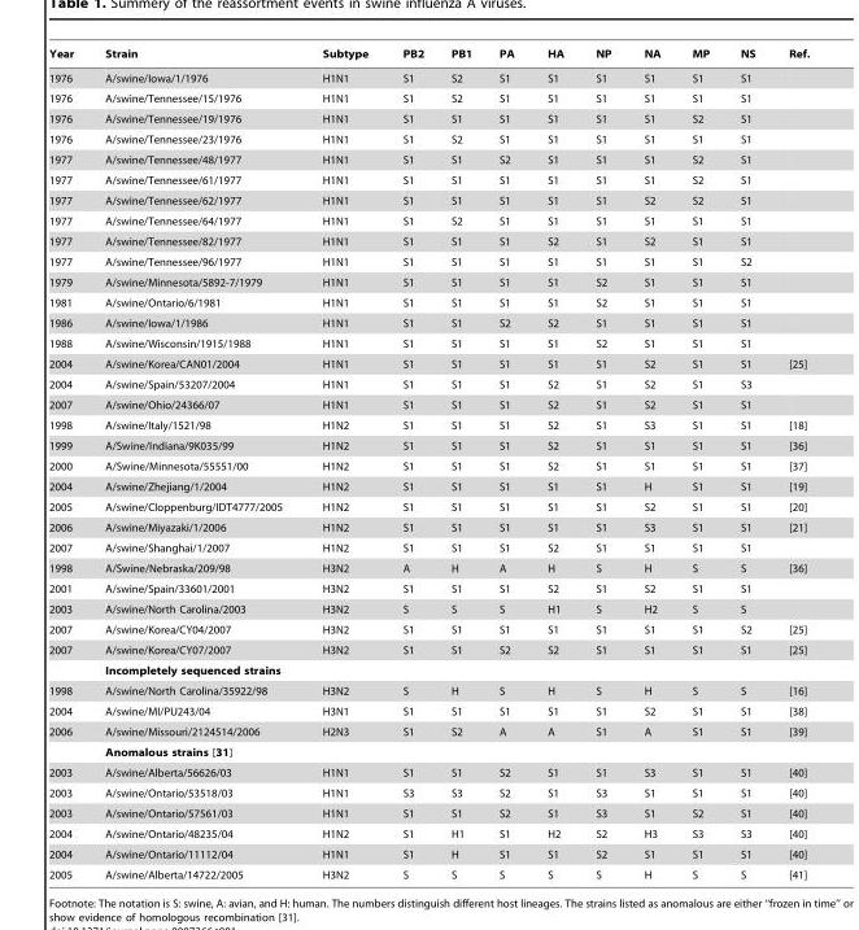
<table><thead><tr><td>Year</td><td>Strain</td><td>Subtype</td><td>PB2</td><td>PB1</td><td>PA</td><td>HA</td><td>NP</td><td>NA</td><td>MP</td><td>NS</td><td>Ref.</td></tr></thead><tbody><tr><td>1976</td><td>A/swine/Iowa/1/1976</td><td>H1N1</td><td>S1</td><td>S2</td><td>S1</td><td>S1</td><td>S1</td><td>S1</td><td>S1</td><td>S1</td><td></td></tr><tr><td>1976</td><td>A/swine/Tennessee/15/1976</td><td>H1N1</td><td>S1</td><td>S2</td><td>S1</td><td>S1</td><td>S1</td><td>S1</td><td>S1</td><td>S1</td><td></td></tr><tr><td>1976</td><td>A/swine/Tennessee/19/1976</td><td>H1N1</td><td>S1</td><td>S1</td><td>S1</td><td>S1</td><td>S1</td><td>S1</td><td>S2</td><td>S1</td><td></td></tr><tr><td>1976</td><td>A/swine/Tennessee/23/1976</td><td>H1N1</td><td>S1</td><td>S2</td><td>S1</td><td>S1</td><td>S1</td><td>S1</td><td>S1</td><td>S1</td><td></td></tr><tr><td>1977</td><td>A/swine/Tennessee/48/1977</td><td>H1N1</td><td>S1</td><td>S1</td><td>S2</td><td>S1</td><td>S1</td><td>S1</td><td>S2</td><td>S1</td><td></td></tr><tr><td>1977</td><td>A/swine/Tennessee/61/1977</td><td>H1N1</td><td>S1</td><td>S1</td><td>S1</td><td>S1</td><td>S1</td><td>S1</td><td>S2</td><td>S1</td><td></td></tr><tr><td>1977</td><td>A/swine/Tennessee/62/1977</td><td>H1N1</td><td>S1</td><td>S1</td><td>S1</td><td>S1</td><td>S1</td><td>S2</td><td>S2</td><td>S1</td><td></td></tr><tr><td>1977</td><td>A/swine/Tennessee/64/1977</td><td>H1N1</td><td>S1</td><td>S2</td><td>S1</td><td>S1</td><td>S1</td><td>S1</td><td>S1</td><td>S1</td><td></td></tr><tr><td>1977</td><td>A/swine/Tennessee/82/1977</td><td>H1N1</td><td>S1</td><td>S1</td><td>S1</td><td>S2</td><td>S1</td><td>S2</td><td>S1</td><td>S1</td><td></td></tr><tr><td>1977</td><td>A/swine/Tennessee/96/1977</td><td>H1N1</td><td>S1</td><td>S1</td><td>S1</td><td>S1</td><td>S1</td><td>S1</td><td>S1</td><td>S2</td><td></td></tr><tr><td>1979</td><td>A/swine/Minnesota/5892-7/1979</td><td>H1N1</td><td>S1</td><td>S1</td><td>S1</td><td>S1</td><td>S2</td><td>S1</td><td>S1</td><td>S1</td><td></td></tr><tr><td>1981</td><td>A/swine/Ontario/6/1981</td><td>H1N1</td><td>S1</td><td>S1</td><td>S1</td><td>S1</td><td>S2</td><td>S1</td><td>S1</td><td>S1</td><td></td></tr><tr><td>1986</td><td>A/swine/Iowa/1/1986</td><td>H1N1</td><td>S1</td><td>S1</td><td>S2</td><td>S2</td><td>S1</td><td>S1</td><td>S1</td><td>S1</td><td></td></tr><tr><td>1988</td><td>A/swine/Wisconsin/1915/1988</td><td>H1N1</td><td>S1</td><td>S1</td><td>S1</td><td>S1</td><td>S2</td><td>S1</td><td>S1</td><td>S1</td><td></td></tr><tr><td>2004</td><td>A/swine/Korea/CAN01/2004</td><td>H1N1</td><td>S1</td><td>S1</td><td>S1</td><td>S1</td><td>S1</td><td>S2</td><td>S1</td><td>S1</td><td>[25]</td></tr><tr><td>2004</td><td>A/swine/Spain/53207/2004</td><td>H1N1</td><td>S1</td><td>S1</td><td>S1</td><td>S2</td><td>S1</td><td>S2</td><td>S1</td><td>S3</td><td></td></tr><tr><td>2007</td><td>A/swine/Ohio/24366/07</td><td>H1N1</td><td>S1</td><td>S1</td><td>S1</td><td>S2</td><td>S1</td><td>S2</td><td>S1</td><td>S1</td><td></td></tr><tr><td>1998</td><td>A/swine/Italy/1521/98</td><td>H1N2</td><td>S1</td><td>S1</td><td>S1</td><td>S2</td><td>S1</td><td>S3</td><td>S1</td><td>S1</td><td>[18]</td></tr><tr><td>1999</td><td>A/Swine/Indiana/9K035/99</td><td>H1N2</td><td>S1</td><td>S1</td><td>S1</td><td>S2</td><td>S1</td><td>S1</td><td>S1</td><td>S1</td><td>[36]</td></tr><tr><td>2000</td><td>A/Swine/Minnesota/55551/00</td><td>H1N2</td><td>S1</td><td>S1</td><td>S1</td><td>S2</td><td>S1</td><td>S1</td><td>S1</td><td>S1</td><td>[37]</td></tr><tr><td>2004</td><td>A/swine/Zhejiang/1/2004</td><td>H1N2</td><td>S1</td><td>S1</td><td>S1</td><td>S1</td><td>S1</td><td>H</td><td>S1</td><td>S1</td><td>[19]</td></tr><tr><td>2005</td><td>A/swine/Cloppenburg/IDT4777/2005</td><td>H1N2</td><td>S1</td><td>S1</td><td>S1</td><td>S1</td><td>S1</td><td>S2</td><td>S1</td><td>S1</td><td>[20]</td></tr><tr><td>2006</td><td>A/swine/Miyazaki/1/2006</td><td>H1N2</td><td>S1</td><td>S1</td><td>S1</td><td>S1</td><td>S1</td><td>S3</td><td>S1</td><td>S1</td><td>[21]</td></tr><tr><td>2007</td><td>A/swine/Shanghai/1/2007</td><td>H1N2</td><td>S1</td><td>S1</td><td>S1</td><td>S2</td><td>S1</td><td>S1</td><td>S1</td><td>S1</td><td></td></tr><tr><td>1998</td><td>A/Swine/Nebraska/209/98</td><td>H3N2</td><td>A</td><td>H</td><td>A</td><td>H</td><td>S</td><td>H</td><td>S</td><td>S</td><td>[36]</td></tr><tr><td>2001</td><td>A/swine/Spain/33601/2001</td><td>H3N2</td><td>S1</td><td>S1</td><td>S1</td><td>S2</td><td>S1</td><td>S2</td><td>S1</td><td>S1</td><td></td></tr><tr><td>2003</td><td>A/swine/North Carolina/2003</td><td>H3N2</td><td>S</td><td>S</td><td>S</td><td>H1</td><td>S</td><td>H2</td><td>S</td><td>S</td><td></td></tr><tr><td>2007</td><td>A/swine/Korea/CY04/2007</td><td>H3N2</td><td>S1</td><td>S1</td><td>S1</td><td>S1</td><td>S1</td><td>S1</td><td>S1</td><td>S2</td><td>[25]</td></tr><tr><td rowspan="2">2007</td><td>A/swine/Korea/CY07/2007</td><td>H3N2</td><td>S1</td><td>S1</td><td>S2</td><td>S2</td><td>S1</td><td>S1</td><td>S1</td><td>S1</td><td>[25]</td></tr><tr><td colspan="11">Incompletely sequenced strains</td></tr><tr><td>1998</td><td>A/swine/North Carolina/35922/98</td><td>H3N2</td><td>S</td><td>H</td><td>S</td><td>H</td><td>S</td><td>H</td><td>S</td><td>S</td><td>[16]</td></tr><tr><td>2004</td><td>A/swine/MI/PU243/04</td><td>H3N1</td><td>S1</td><td>S1</td><td>S1</td><td>S1</td><td>S1</td><td>S2</td><td>S1</td><td>S1</td><td>[38]</td></tr><tr><td rowspan="2">2006</td><td>A/swine/Missouri/2124514/2006</td><td>H2N3</td><td>S1</td><td>S2</td><td>A</td><td>A</td><td>S1</td><td>A</td><td>S1</td><td>S1</td><td>[39]</td></tr><tr><td colspan="11">Anomalous strains [31]</td></tr><tr><td>2003</td><td>A/swine/Alberta/56626/03</td><td>H1N1</td><td>S1</td><td>S1</td><td>S2</td><td>S1</td><td>S1</td><td>S3</td><td>S1</td><td>S1</td><td>[40]</td></tr><tr><td>2003</td><td>A/swine/Ontario/53518/03</td><td>H1N1</td><td>S3</td><td>S3</td><td>S2</td><td>S1</td><td>S3</td><td>S1</td><td>S1</td><td>S1</td><td>[40]</td></tr><tr><td>2003</td><td>A/swine/Ontario/57561/03</td><td>H1N1</td><td>S1</td><td>S1</td><td>S2</td><td>S1</td><td>S3</td><td>S1</td><td>S2</td><td>S1</td><td>[40]</td></tr><tr><td>2004</td><td>A/swine/Ontario/48235/04</td><td>H1N2</td><td>S1</td><td>H1</td><td>S1</td><td>H2</td><td>S2</td><td>H3</td><td>S3</td><td>S3</td><td>[40]</td></tr><tr><td>2004</td><td>A/swine/Ontario/11112/04</td><td>H1N1</td><td>S1</td><td>H</td><td>S1</td><td>S1</td><td>S2</td><td>S1</td><td>S1</td><td>S1</td><td>[40]</td></tr><tr><td>2005</td><td>A/swine/Alberta/14722/2005</td><td>H3N2</td><td>S</td><td>S</td><td>S</td><td>S</td><td>S</td><td>H</td><td>S</td><td>S</td><td>[41]</td></tr></tbody></table>